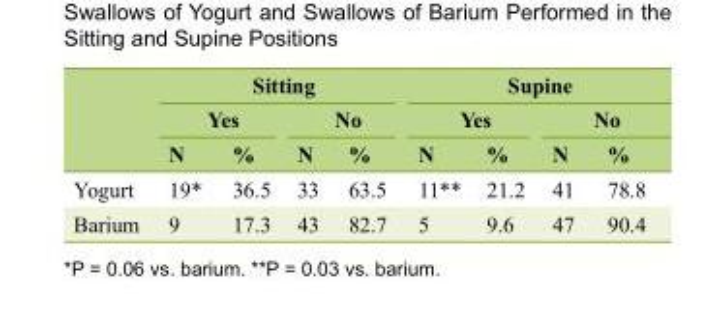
<table><thead><tr><td rowspan="3"></td><td colspan="4">Sitting</td><td colspan="4">Supine</td></tr><tr><td colspan="2">Yes</td><td colspan="2">No</td><td colspan="2">Yes</td><td colspan="2">No</td></tr><tr><td>N</td><td>%</td><td>N</td><td>%</td><td>N</td><td>%</td><td>N</td><td>%</td></tr></thead><tbody><tr><td>Yogurt</td><td>19*</td><td>36.5</td><td>33</td><td>63.5</td><td>11**</td><td>21.2</td><td>41</td><td>78.8</td></tr><tr><td>Barium</td><td>9</td><td>17.3</td><td>43</td><td>82.7</td><td>5</td><td>9.6</td><td>47</td><td>90.4</td></tr></tbody></table>